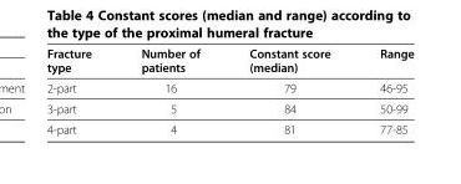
<table><thead><tr><td>Fracture type</td><td>Number of patients</td><td>Constant score (median)</td><td>Range</td></tr></thead><tbody><tr><td>2-part</td><td>16</td><td>79</td><td>46-95</td></tr><tr><td>3-part</td><td>5</td><td>84</td><td>50-99</td></tr><tr><td>4-part</td><td>4</td><td>81</td><td>77-85</td></tr></tbody></table>